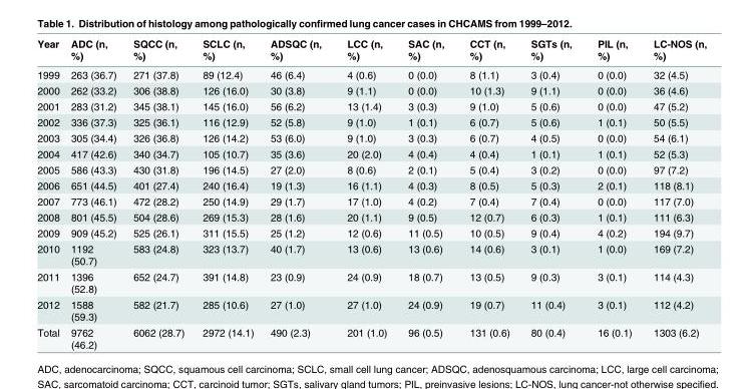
<table><thead><tr><td>Year</td><td>ADC (n, %)</td><td>SQCC (n, %)</td><td>SCLC (n, %)</td><td>ADSQC (n, %)</td><td>LCC (n, %)</td><td>SAC (n, %)</td><td>CCT (n, %)</td><td>SGTs (n, %)</td><td>PIL (n, %)</td><td>LC-NOS (n, %)</td></tr></thead><tbody><tr><td>1999</td><td>263 (36.7)</td><td>271 (37.8)</td><td>89 (12.4)</td><td>46 (6.4)</td><td>4 (0.6)</td><td>0 (0.0)</td><td>8 (1.1)</td><td>3 (0.4)</td><td>0 (0.0)</td><td>32 (4.5)</td></tr><tr><td>2000</td><td>262 (33.2)</td><td>306 (38.8)</td><td>126 (16.0)</td><td>30 (3.8)</td><td>9 (1.1)</td><td>0 (0.0)</td><td>10 (1.3)</td><td>9 (1.1)</td><td>0 (0.0)</td><td>36 (4.6)</td></tr><tr><td>2001</td><td>283 (31.2)</td><td>345 (38.1)</td><td>145 (16.0)</td><td>56 (6.2)</td><td>13 (1.4)</td><td>3 (0.3)</td><td>9 (1.0)</td><td>5 (0.6)</td><td>0 (0.0)</td><td>47 (5.2)</td></tr><tr><td>2002</td><td>336 (37.3)</td><td>325 (36.1)</td><td>116 (12.9)</td><td>52 (5.8)</td><td>9 (1.0)</td><td>1 (0.1)</td><td>6 (0.7)</td><td>5 (0.6)</td><td>1 (0.1)</td><td>50 (5.5)</td></tr><tr><td>2003</td><td>305 (34.4)</td><td>326 (36.8)</td><td>126 (14.2)</td><td>53 (6.0)</td><td>9 (1.0)</td><td>3 (0.3)</td><td>6 (0.7)</td><td>4 (0.5)</td><td>0 (0.0)</td><td>54 (6.1)</td></tr><tr><td>2004</td><td>417 (42.6)</td><td>340 (34.7)</td><td>105 (10.7)</td><td>35 (3.6)</td><td>20 (2.0)</td><td>4 (0.4)</td><td>4 (0.4)</td><td>1 (0.1)</td><td>1 (0.1)</td><td>52 (5.3)</td></tr><tr><td>2005</td><td>586 (43.3)</td><td>430 (31.8)</td><td>196 (14.5)</td><td>27 (2.0)</td><td>8 (0.6)</td><td>2 (0.1)</td><td>5 (0.4)</td><td>3 (0.2)</td><td>0 (0.0)</td><td>97 (7.2)</td></tr><tr><td>2006</td><td>651 (44.5)</td><td>401 (27.4)</td><td>240 (16.4)</td><td>19 (1.3)</td><td>16 (1.1)</td><td>4 (0.3)</td><td>8 (0.5)</td><td>5 (0.3)</td><td>2 (0.1)</td><td>118 (8.1)</td></tr><tr><td>2007</td><td>773 (46.1)</td><td>472 (28.2)</td><td>250 (14.9)</td><td>29 (1.7)</td><td>17 (1.0)</td><td>4 (0.2)</td><td>7 (0.4)</td><td>7 (0.4)</td><td>0 (0.0)</td><td>117 (7.0)</td></tr><tr><td>2008</td><td>801 (45.5)</td><td>504 (28.6)</td><td>269 (15.3)</td><td>28 (1.6)</td><td>20 (1.1)</td><td>9 (0.5)</td><td>12 (0.7)</td><td>6 (0.3)</td><td>1 (0.1)</td><td>111 (6.3)</td></tr><tr><td>2009</td><td>909 (45.2)</td><td>525 (26.1)</td><td>311 (15.5)</td><td>25 (1.2)</td><td>12 (0.6)</td><td>11 (0.5)</td><td>10 (0.5)</td><td>9 (0.4)</td><td>4 (0.2)</td><td>194 (9.7)</td></tr><tr><td>2010</td><td>1192 (50.7)</td><td>583 (24.8)</td><td>323 (13.7)</td><td>40 (1.7)</td><td>13 (0.6)</td><td>13 (0.6)</td><td>14 (0.6)</td><td>3 (0.1)</td><td>1 (0.0)</td><td>169 (7.2)</td></tr><tr><td>2011</td><td>1396 (52.8)</td><td>652 (24.7)</td><td>391 (14.8)</td><td>23 (0.9)</td><td>24 (0.9)</td><td>18 (0.7)</td><td>13 (0.5)</td><td>9 (0.3)</td><td>3 (0.1)</td><td>114 (4.3)</td></tr><tr><td>2012</td><td>1588 (59.3)</td><td>582 (21.7)</td><td>285 (10.6)</td><td>27 (1.0)</td><td>27 (1.0)</td><td>24 (0.9)</td><td>19 (0.7)</td><td>11 (0.4)</td><td>3 (0.1)</td><td>112 (4.2)</td></tr><tr><td>Total</td><td>9762 (46.2)</td><td>6062 (28.7)</td><td>2972 (14.1)</td><td>490 (2.3)</td><td>201 (1.0)</td><td>96 (0.5)</td><td>131 (0.6)</td><td>80 (0.4)</td><td>16 (0.1)</td><td>1303 (6.2)</td></tr></tbody></table>